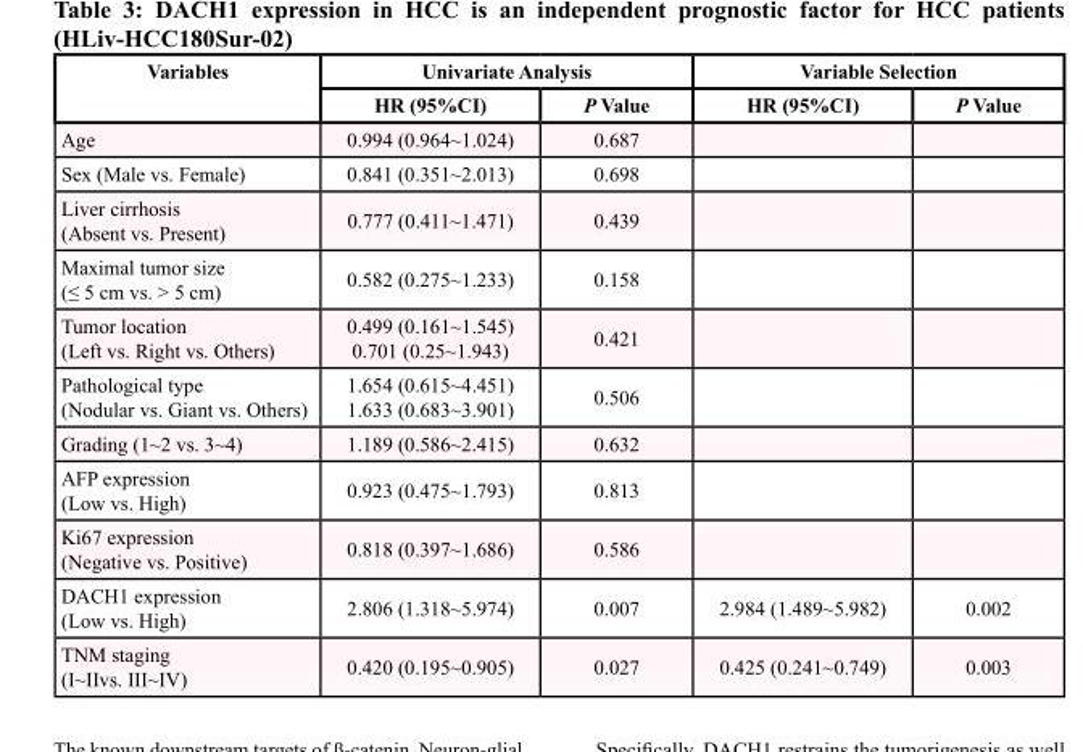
<table><thead><tr><td rowspan="2">Variables</td><td colspan="2">Univariate Analysis</td><td colspan="2">Variable Selection</td></tr><tr><td>HR (95%CI)</td><td>P Value</td><td>HR (95%CI)</td><td>P Value</td></tr></thead><tbody><tr><td>Age</td><td>0.994 (0.964~1.024)</td><td>0.687</td><td></td><td></td></tr><tr><td>Sex (Male vs. Female)</td><td>0.841 (0.351~2.013)</td><td>0.698</td><td></td><td></td></tr><tr><td>Liver cirrhosis (Absent vs. Present)</td><td>0.777 (0.411~1.471)</td><td>0.439</td><td></td><td></td></tr><tr><td>Maximal tumor size (≤ 5 cm vs. &gt; 5 cm)</td><td>0.582 (0.275~1.233)</td><td>0.158</td><td></td><td></td></tr><tr><td>Tumor location (Left vs. Right vs. Others)</td><td>0.499 (0.161~1.545) 0.701 (0.25~1.943)</td><td>0.421</td><td></td><td></td></tr><tr><td>Pathological type (Nodular vs. Giant vs. Others)</td><td>1.654 (0.615~4.451) 1.633 (0.683~3.901)</td><td>0.506</td><td></td><td></td></tr><tr><td>Grading (1~2 vs. 3~4)</td><td>1.189 (0.586~2.415)</td><td>0.632</td><td></td><td></td></tr><tr><td>AFP expression (Low vs. High)</td><td>0.923 (0.475~1.793)</td><td>0.813</td><td></td><td></td></tr><tr><td>Ki67 expression (Negative vs. Positive)</td><td>0.818 (0.397~1.686)</td><td>0.586</td><td></td><td></td></tr><tr><td>DACH1 expression (Low vs. High)</td><td>2.806 (1.318~5.974)</td><td>0.007</td><td>2.984 (1.489~5.982)</td><td>0.002</td></tr><tr><td>TNM staging (I~IIvs. III~IV)</td><td>0.420 (0.195~0.905)</td><td>0.027</td><td>0.425 (0.241~0.749)</td><td>0.003</td></tr></tbody></table>